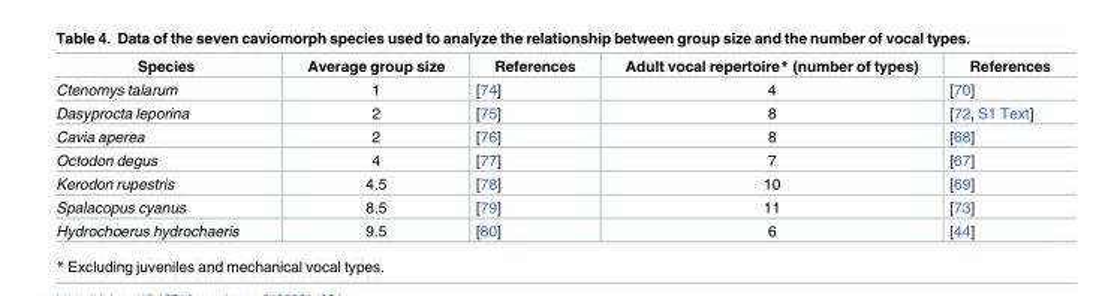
<table><thead><tr><td>Species</td><td>Average group size</td><td>References</td><td>Adult vocal repertoire* (number of types)</td><td>References</td></tr></thead><tbody><tr><td>Ctenomys talarum</td><td>1</td><td>[74]</td><td>4</td><td>[70]</td></tr><tr><td>Dasyprocta leporina</td><td>2</td><td>[75]</td><td>8</td><td>[72, S1 Text]</td></tr><tr><td>Cavia aperea</td><td>2</td><td>[76]</td><td>8</td><td>[68]</td></tr><tr><td>Octodon degus</td><td>4</td><td>[77]</td><td>7</td><td>[67]</td></tr><tr><td>Kerodon rupestris</td><td>4.5</td><td>[78]</td><td>10</td><td>[69]</td></tr><tr><td>Spalacopus cyanus</td><td>8.5</td><td>[79]</td><td>11</td><td>[73]</td></tr><tr><td>Hydrochoerus hydrochaeris</td><td>9.5</td><td>[80]</td><td>6</td><td>[44]</td></tr></tbody></table>